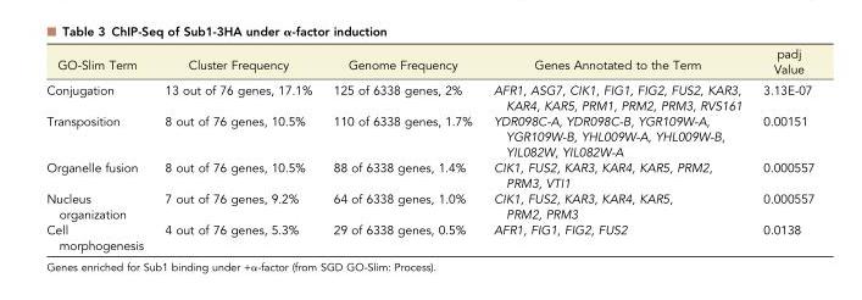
<table><thead><tr><td>GO-Slim Term</td><td>Cluster Frequency</td><td>Genome Frequency</td><td>Genes Annotated to the Term</td><td>padj Value</td></tr></thead><tbody><tr><td>Conjugation</td><td>13 out of 76 genes, 17.1%</td><td>125 of 6338 genes, 2%</td><td>AFR1, ASG7, CIK1, FIG1, FIG2, FUS2, KAR3, KAR4, KAR5, PRM1, PRM2, PRM3, RVS161</td><td>3.13E-07</td></tr><tr><td>Transposition</td><td>8 out of 76 genes, 10.5%</td><td>110 of 6338 genes, 1.7%</td><td>YDR098C-A, YDR098C-B, YGR109W-A, YGR109W-B, YHL009W-A, YHL009W-B, YIL082W, YIL082W-A</td><td>0.00151</td></tr><tr><td>Organelle fusion</td><td>8 out of 76 genes, 10.5%</td><td>88 of 6338 genes, 1.4%</td><td>CIK1, FUS2, KAR3, KAR4, KAR5, PRM2, PRM3, VTI1</td><td>0.000557</td></tr><tr><td>Nucleus organization</td><td>7 out of 76 genes, 9.2%</td><td>64 of 6338 genes, 1.0%</td><td>CIK1, FUS2, KAR3, KAR4, KAR5, PRM2, PRM3</td><td>0.000557</td></tr><tr><td>Cell morphogenesis</td><td>4 out of 76 genes, 5.3%</td><td>29 of 6338 genes, 0.5%</td><td>AFR1, FIG1, FIG2, FUS2</td><td>0.0138</td></tr></tbody></table>